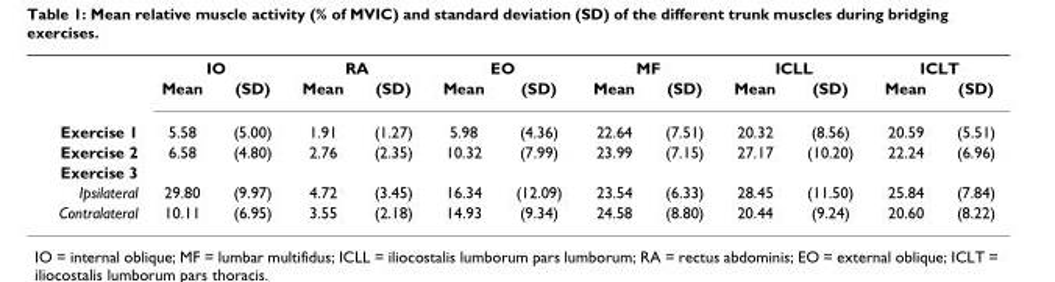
<table><thead><tr><td rowspan="2"></td><td colspan="2">IO</td><td colspan="2">RA</td><td colspan="2">EO</td><td colspan="2">MF</td><td colspan="2">ICLL</td><td colspan="2">ICLT</td></tr><tr><td>Mean</td><td>(SD)</td><td>Mean</td><td>(SD)</td><td>Mean</td><td>(SD)</td><td>Mean</td><td>(SD)</td><td>Mean</td><td>(SD)</td><td>Mean</td><td>(SD)</td></tr></thead><tbody><tr><td>Exercise 1</td><td>5.58</td><td>(5.00)</td><td>1.91</td><td>(1.27)</td><td>5.98</td><td>(4.36)</td><td>22.64</td><td>(7.51)</td><td>20.32</td><td>(8.56)</td><td>20.59</td><td>(5.51)</td></tr><tr><td>Exercise 2</td><td>6.58</td><td>(4.80)</td><td>2.76</td><td>(2.35)</td><td>10.32</td><td>(7.99)</td><td>23.99</td><td>(7.15)</td><td>27.17</td><td>(10.20)</td><td>22.24</td><td>(6.96)</td></tr><tr><td colspan="13">Exercise 3</td></tr><tr><td>Ipsilateral</td><td>29.80</td><td>(9.97)</td><td>4.72</td><td>(3.45)</td><td>16.34</td><td>(12.09)</td><td>23.54</td><td>(6.33)</td><td>28.45</td><td>(11.50)</td><td>25.84</td><td>(7.84)</td></tr><tr><td>Contralateral</td><td>10.11</td><td>(6.95)</td><td>3.55</td><td>(2.18)</td><td>14.93</td><td>(9.34)</td><td>24.58</td><td>(8.80)</td><td>20.44</td><td>(9.24)</td><td>20.60</td><td>(8.22)</td></tr></tbody></table>